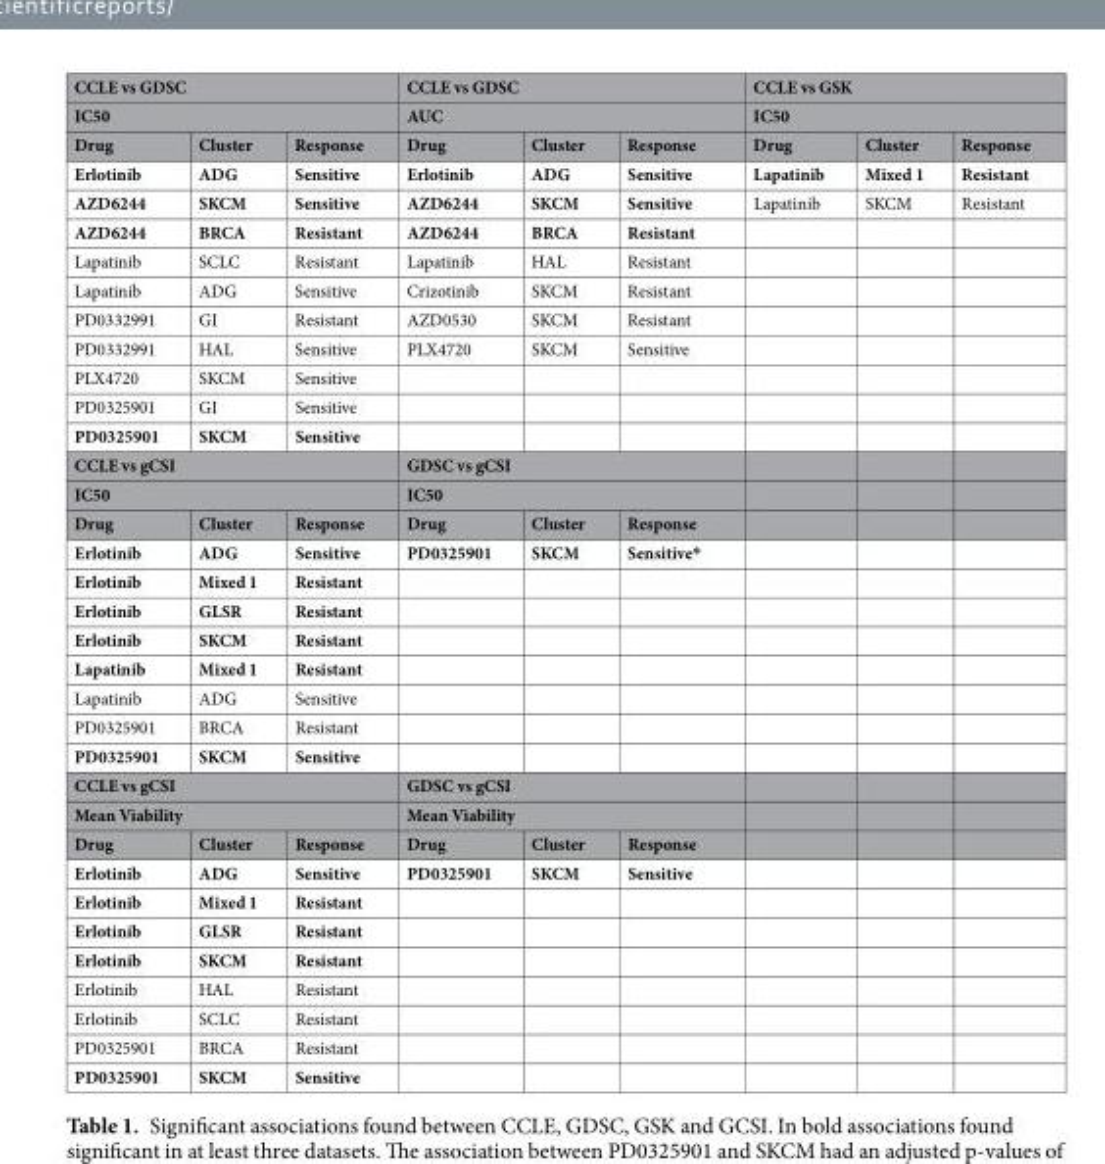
<table><thead><tr><td rowspan="2" colspan="3">CCLE vs GDSC IC50</td><td rowspan="2" colspan="3">CCLE vs GDSC AUC</td><td rowspan="2" colspan="3">CCLE vs GSK IC50</td></tr><tr></tr><tr><td>Drug</td><td>Cluster</td><td>Response</td><td>Drug</td><td>Cluster</td><td>Response</td><td>Drug</td><td>Cluster</td><td>Response</td></tr></thead><tbody><tr><td>Erlotinib</td><td>ADG</td><td>Sensitive</td><td>Erlotinib</td><td>ADG</td><td>Sensitive</td><td>Lapatinib</td><td>Mixed 1</td><td>Resistant</td></tr><tr><td>AZD6244</td><td>SKCM</td><td>Sensitive</td><td>AZD6244</td><td>SKCM</td><td>Sensitive</td><td>Lapatinib</td><td>SKCM</td><td>Resistant</td></tr><tr><td>AZD6244</td><td>BRCA</td><td>Resistant</td><td>AZD6244</td><td>BRCA</td><td>Resistant</td><td></td><td></td><td></td></tr><tr><td>Lapatinib</td><td>SCLC</td><td>Resistant</td><td>Lapatinib</td><td>HAL</td><td>Resistant</td><td></td><td></td><td></td></tr><tr><td>Lapatinib</td><td>ADG</td><td>Sensitive</td><td>Crizotinib</td><td>SKCM</td><td>Resistant</td><td></td><td></td><td></td></tr><tr><td>PD0332991</td><td>GI</td><td>Resistant</td><td>AZD0530</td><td>SKCM</td><td>Resistant</td><td></td><td></td><td></td></tr><tr><td>PD0332991</td><td>HAL</td><td>Sensitive</td><td>PLX4720</td><td>SKCM</td><td>Sensitive</td><td></td><td></td><td></td></tr><tr><td>PLX4720</td><td>SKCM</td><td>Sensitive</td><td></td><td></td><td></td><td></td><td></td><td></td></tr><tr><td>PD0325901</td><td>GI</td><td>Sensitive</td><td></td><td></td><td></td><td></td><td></td><td></td></tr><tr><td>PD0325901</td><td>SKCM</td><td>Sensitive</td><td></td><td></td><td></td><td></td><td></td><td></td></tr><tr><td colspan="3">CCLE vs gCSI</td><td colspan="3">GDSC vs gCSI</td><td></td><td></td><td></td></tr><tr><td colspan="3">IC50</td><td colspan="3">IC50</td><td></td><td></td><td></td></tr><tr><td>Drug</td><td>Cluster</td><td>Response</td><td>Drug</td><td>Cluster</td><td>Response</td><td></td><td></td><td></td></tr><tr><td>Erlotinib</td><td>ADG</td><td>Sensitive</td><td>PD0325901</td><td>SKCM</td><td>Sensitive*</td><td></td><td></td><td></td></tr><tr><td>Erlotinib</td><td>Mixed 1</td><td>Resistant</td><td></td><td></td><td></td><td></td><td></td><td></td></tr><tr><td>Erlotinib</td><td>GLSR</td><td>Resistant</td><td></td><td></td><td></td><td></td><td></td><td></td></tr><tr><td>Erlotinib</td><td>SKCM</td><td>Resistant</td><td></td><td></td><td></td><td></td><td></td><td></td></tr><tr><td>Lapatinib</td><td>Mixed 1</td><td>Resistant</td><td></td><td></td><td></td><td></td><td></td><td></td></tr><tr><td>Lapatinib</td><td>ADG</td><td>Sensitive</td><td></td><td></td><td></td><td></td><td></td><td></td></tr><tr><td>PD0325901</td><td>BRCA</td><td>Resistant</td><td></td><td></td><td></td><td></td><td></td><td></td></tr><tr><td>PD0325901</td><td>SKCM</td><td>Sensitive</td><td></td><td></td><td></td><td></td><td></td><td></td></tr><tr><td colspan="3">CCLE vs gCSI</td><td colspan="3">GDSC vs gCSI</td><td></td><td></td><td></td></tr><tr><td colspan="3">Mean Viability</td><td colspan="3">Mean Viability</td><td></td><td></td><td></td></tr><tr><td>Drug</td><td>Cluster</td><td>Response</td><td>Drug</td><td>Cluster</td><td>Response</td><td></td><td></td><td></td></tr><tr><td>Erlotinib</td><td>ADG</td><td>Sensitive</td><td>PD0325901</td><td>SKCM</td><td>Sensitive</td><td></td><td></td><td></td></tr><tr><td>Erlotinib</td><td>Mixed 1</td><td>Resistant</td><td></td><td></td><td></td><td></td><td></td><td></td></tr><tr><td>Erlotinib</td><td>GLSR</td><td>Resistant</td><td></td><td></td><td></td><td></td><td></td><td></td></tr><tr><td>Erlotinib</td><td>SKCM</td><td>Resistant</td><td></td><td></td><td></td><td></td><td></td><td></td></tr><tr><td>Erlotinib</td><td>HAL</td><td>Resistant</td><td></td><td></td><td></td><td></td><td></td><td></td></tr><tr><td>Erlotinib</td><td>SCLC</td><td>Resistant</td><td></td><td></td><td></td><td></td><td></td><td></td></tr><tr><td>PD0325901</td><td>BRCA</td><td>Resistant</td><td></td><td></td><td></td><td></td><td></td><td></td></tr><tr><td>PD0325901</td><td>SKCM</td><td>Sensitive</td><td></td><td></td><td></td><td></td><td></td><td></td></tr></tbody></table>